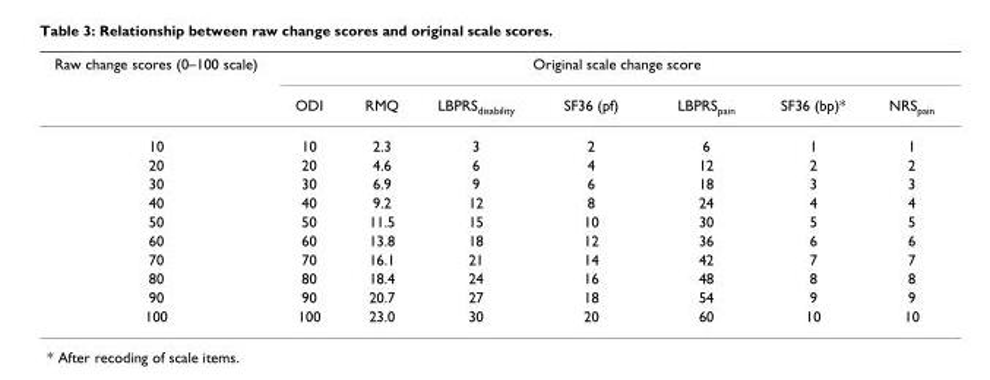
<table><thead><tr><td rowspan="2">Raw change scores (0–100 scale)</td><td colspan="7">Original scale change score</td></tr><tr><td>ODI</td><td>RMQ</td><td>LBPRSdisability</td><td>SF36 (pf)</td><td>LBPRSpain</td><td>SF36 (bp)*</td><td>NRSpain</td></tr></thead><tbody><tr><td>10</td><td>10</td><td>2.3</td><td>3</td><td>2</td><td>6</td><td>1</td><td>1</td></tr><tr><td>20</td><td>20</td><td>4.6</td><td>6</td><td>4</td><td>12</td><td>2</td><td>2</td></tr><tr><td>30</td><td>30</td><td>6.9</td><td>9</td><td>6</td><td>18</td><td>3</td><td>3</td></tr><tr><td>40</td><td>40</td><td>9.2</td><td>12</td><td>8</td><td>24</td><td>4</td><td>4</td></tr><tr><td>50</td><td>50</td><td>11.5</td><td>15</td><td>10</td><td>30</td><td>5</td><td>5</td></tr><tr><td>60</td><td>60</td><td>13.8</td><td>18</td><td>12</td><td>36</td><td>6</td><td>6</td></tr><tr><td>70</td><td>70</td><td>16.1</td><td>21</td><td>14</td><td>42</td><td>7</td><td>7</td></tr><tr><td>80</td><td>80</td><td>18.4</td><td>24</td><td>16</td><td>48</td><td>8</td><td>8</td></tr><tr><td>90</td><td>90</td><td>20.7</td><td>27</td><td>18</td><td>54</td><td>9</td><td>9</td></tr><tr><td>100</td><td>100</td><td>23.0</td><td>30</td><td>20</td><td>60</td><td>10</td><td>10</td></tr></tbody></table>